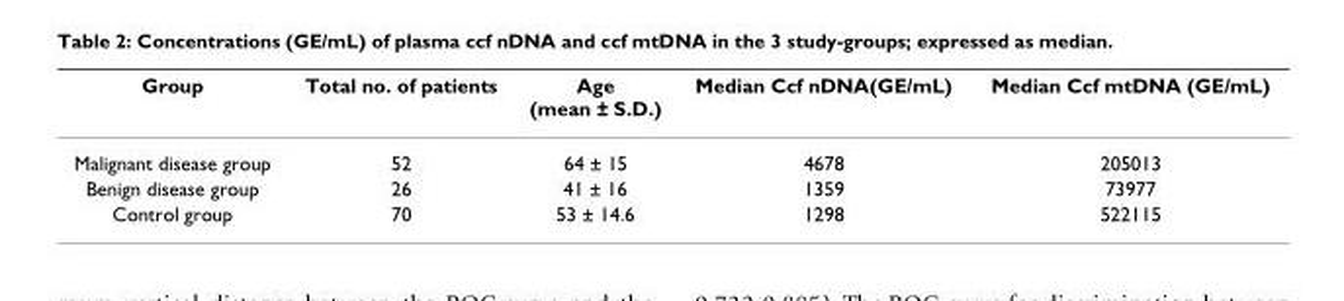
<table><thead><tr><td>Group</td><td>Total no. of patients</td><td>Age (mean ± S.D.)</td><td>Median Ccf nDNA(GE/mL)</td><td>Median Ccf mtDNA (GE/mL)</td></tr></thead><tbody><tr><td>Malignant disease group</td><td>52</td><td>64 ± 15</td><td>4678</td><td>205013</td></tr><tr><td>Benign disease group</td><td>26</td><td>41 ± 16</td><td>1359</td><td>73977</td></tr><tr><td>Control group</td><td>70</td><td>53 ± 14.6</td><td>1298</td><td>522115</td></tr></tbody></table>